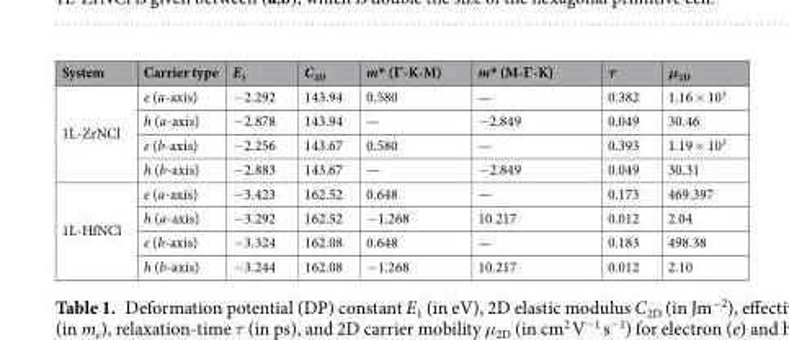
<table><thead><tr><td>System</td><td>Carrier type</td><td>E<sub>1</sub></td><td>C<sub>2D</sub></td><td>m* (Γ-K-M)</td><td>m* (M-Γ-K)</td><td>τ</td><td>μ<sub>2D</sub></td></tr></thead><tbody><tr><td rowspan="4">1L-ZrNCl</td><td>e (a-axis)</td><td>−2.292</td><td>143.94</td><td>0.580</td><td>—</td><td>0.382</td><td>1.16 × 10<sup>3</sup></td></tr><tr><td>h (a-axis)</td><td>−2.878</td><td>143.94</td><td>—</td><td>−2.849</td><td>0.049</td><td>30.46</td></tr><tr><td>e (b-axis)</td><td>−2.256</td><td>143.67</td><td>0.580</td><td>—</td><td>0.393</td><td>1.19 × 10<sup>3</sup></td></tr><tr><td>h (b-axis)</td><td>−2.883</td><td>143.67</td><td>—</td><td>−2.849</td><td>0.049</td><td>30.31</td></tr><tr><td rowspan="4">1L-HfNCl</td><td>e (a-axis)</td><td>−3.423</td><td>162.52</td><td>0.648</td><td>—</td><td>0.173</td><td>469.397</td></tr><tr><td>h (a-axis)</td><td>−3.292</td><td>162.52</td><td>−1.268</td><td>10.217</td><td>0.012</td><td>2.04</td></tr><tr><td>e (b-axis)</td><td>−3.324</td><td>162.08</td><td>0.648</td><td>—</td><td>0.183</td><td>498.38</td></tr><tr><td>h (b-axis)</td><td>−3.244</td><td>162.08</td><td>−1.268</td><td>10.217</td><td>0.012</td><td>2.10</td></tr></tbody></table>